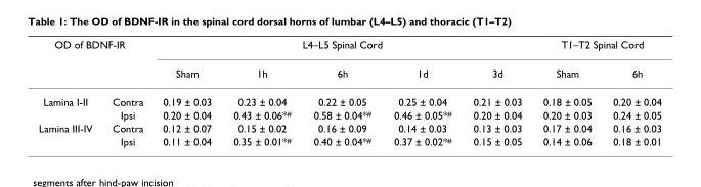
<table><thead><tr><td colspan="2">OD of BDNF-IR</td><td colspan="5">L4–L5 Spinal Cord</td><td colspan="2">T1–T2 Spinal Cord</td></tr><tr><td></td><td></td><td>Sham</td><td>1h</td><td>6h</td><td>1d</td><td>3d</td><td>Sham</td><td>6h</td></tr></thead><tbody><tr><td rowspan="2">Lamina I-II</td><td>Contra</td><td>0.19 ± 0.03</td><td>0.23 ± 0.04</td><td>0.22 ± 0.05</td><td>0.25 ± 0.04</td><td>0.21 ± 0.03</td><td>0.18 ± 0.05</td><td>0.20 ± 0.04</td></tr><tr><td>Ipsi</td><td>0.20 ± 0.04</td><td>0.43 ± 0.06*<sup>#</sup></td><td>0.58 ± 0.04*<sup>#</sup></td><td>0.46 ± 0.05*<sup>#</sup></td><td>0.20 ± 0.04</td><td>0.20 ± 0.03</td><td>0.24 ± 0.05</td></tr><tr><td rowspan="2">Lamina III-IV</td><td>Contra</td><td>0.12 ± 0.07</td><td>0.15 ± 0.02</td><td>0.16 ± 0.09</td><td>0.14 ± 0.03</td><td>0.13 ± 0.03</td><td>0.17 ± 0.04</td><td>0.16 ± 0.03</td></tr><tr><td>Ipsi</td><td>0.11 ± 0.04</td><td>0.35 ± 0.01*<sup>#</sup></td><td>0.40 ± 0.04*<sup>#</sup></td><td>0.37 ± 0.02*<sup>#</sup></td><td>0.15 ± 0.05</td><td>0.14 ± 0.06</td><td>0.18 ± 0.01</td></tr></tbody></table>